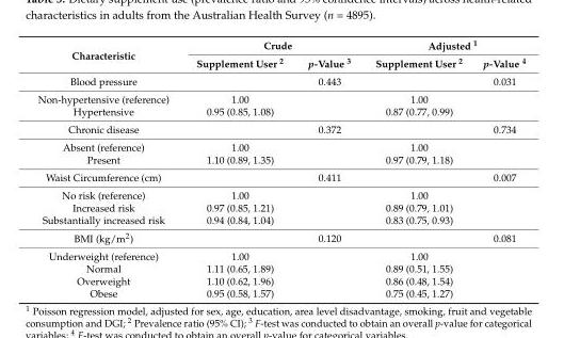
<table><thead><tr><td rowspan="2">Characteristic</td><td colspan="2">Crude</td><td colspan="2">Adjusted <sup>1</sup></td></tr><tr><td>Supplement User <sup>2</sup></td><td>p-Value <sup>3</sup></td><td>Supplement User <sup>2</sup></td><td>p-Value <sup>4</sup></td></tr></thead><tbody><tr><td>Blood pressure</td><td></td><td>0.443</td><td></td><td>0.031</td></tr><tr><td>Non-hypertensive (reference)</td><td>1.00</td><td></td><td>1.00</td><td></td></tr><tr><td>Hypertensive</td><td>0.95 (0.85, 1.08)</td><td></td><td>0.87 (0.77, 0.99)</td><td></td></tr><tr><td>Chronic disease</td><td></td><td>0.372</td><td></td><td>0.734</td></tr><tr><td>Absent (reference)</td><td>1.00</td><td></td><td>1.00</td><td></td></tr><tr><td>Present</td><td>1.10 (0.89, 1.35)</td><td></td><td>0.97 (0.79, 1.18)</td><td></td></tr><tr><td>Waist Circumference (cm)</td><td></td><td>0.411</td><td></td><td>0.007</td></tr><tr><td>No risk (reference)</td><td>1.00</td><td></td><td>1.00</td><td></td></tr><tr><td>Increased risk</td><td>0.97 (0.85, 1.21)</td><td></td><td>0.89 (0.79, 1.01)</td><td></td></tr><tr><td>Substantially increased risk</td><td>0.94 (0.84, 1.04)</td><td></td><td>0.83 (0.75, 0.93)</td><td></td></tr><tr><td>BMI (kg/m<sup>2</sup>)</td><td></td><td>0.120</td><td></td><td>0.081</td></tr><tr><td>Underweight (reference)</td><td>1.00</td><td></td><td>1.00</td><td></td></tr><tr><td>Normal</td><td>1.11 (0.65, 1.89)</td><td></td><td>0.89 (0.51, 1.55)</td><td></td></tr><tr><td>Overweight</td><td>1.10 (0.62, 1.96)</td><td></td><td>0.86 (0.48, 1.54)</td><td></td></tr><tr><td>Obese</td><td>0.95 (0.58, 1.57)</td><td></td><td>0.75 (0.45, 1.27)</td><td></td></tr></tbody></table>